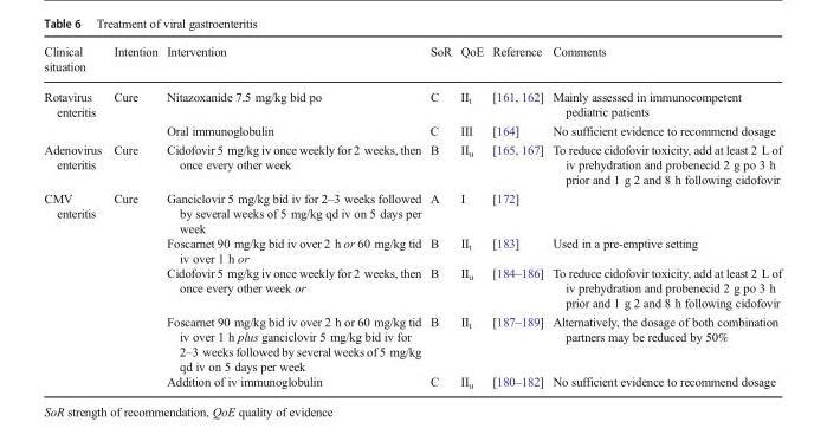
<table><thead><tr><td>Clinical situation</td><td>Intention</td><td>Intervention</td><td>SoR</td><td>QoE</td><td>Reference</td><td>Comments</td></tr></thead><tbody><tr><td rowspan="2">Rotavirus enteritis</td><td rowspan="2">Cure</td><td>Nitazoxanide 7.5 mg/kg bid po</td><td>C</td><td>II<sub>t</sub></td><td>[161, 162]</td><td>Mainly assessed in immunocompetent pediatric patients</td></tr><tr><td>Oral immunoglobulin</td><td>C</td><td>III</td><td>[164]</td><td>No sufficient evidence to recommend dosage</td></tr><tr><td>Adenovirus enteritis</td><td>Cure</td><td>Cidofovir 5 mg/kg iv once weekly for 2 weeks, then once every other week</td><td>B</td><td>II<sub>u</sub></td><td>[165, 167]</td><td>To reduce cidofovir toxicity, add at least 2 L of iv prehydration and probenecid 2 g po 3 h prior and 1 g 2 and 8 h following cidofovir</td></tr><tr><td rowspan="5">CMV enteritis</td><td rowspan="4">Cure</td><td>Ganciclovir 5 mg/kg bid iv for 2–3 weeks followed by several weeks of 5 mg/kg qd iv on 5 days per week</td><td>A</td><td>I</td><td>[172]</td><td></td></tr><tr><td>Foscarnet 90 mg/kg bid iv over 2 h or 60 mg/kg tid iv over 1 h or</td><td>B</td><td>II<sub>t</sub></td><td>[183]</td><td>Used in a pre-emptive setting</td></tr><tr><td>Cidofovir 5 mg/kg iv once weekly for 2 weeks, then once every other week or</td><td>B</td><td>II<sub>u</sub></td><td>[184–186]</td><td>To reduce cidofovir toxicity, add at least 2 L of iv prehydration and probenecid 2 g po 3 h prior and 1 g 2 and 8 h following cidofovir</td></tr><tr><td>Foscarnet 90 mg/kg bid iv over 2 h or 60 mg/kg tid iv over 1 h plus ganciclovir 5 mg/kg bid iv for 2–3 weeks followed by several weeks of 5 mg/kg qd iv on 5 days per week</td><td>B</td><td>II<sub>t</sub></td><td>[187–189]</td><td>Alternatively, the dosage of both combination partners may be reduced by 50%</td></tr><tr><td></td><td>Addition of iv immunoglobulin</td><td>C</td><td>II<sub>u</sub></td><td>[180–182]</td><td>No sufficient evidence to recommend dosage</td></tr></tbody></table>